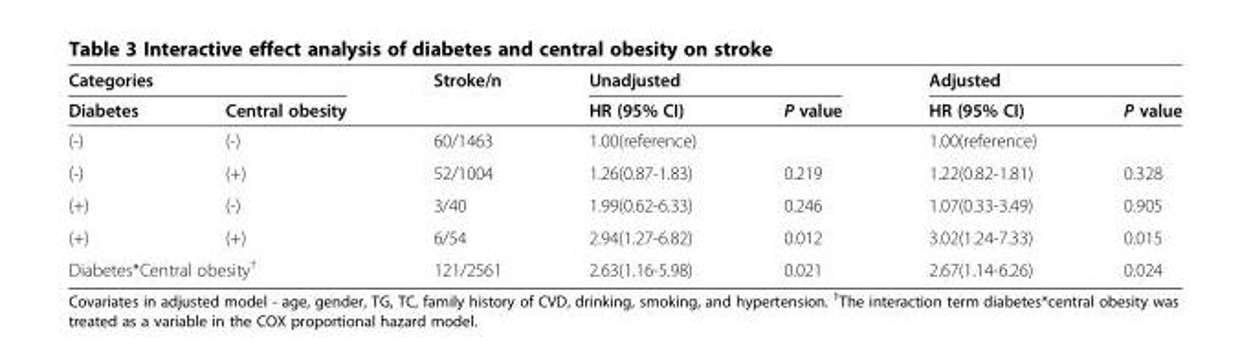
<table><thead><tr><td colspan="2">Categories</td><td rowspan="2">Stroke/n</td><td colspan="2">Unadjusted</td><td colspan="2">Adjusted</td></tr><tr><td>Diabetes</td><td>Central obesity</td><td>HR (95% CI)</td><td>P value</td><td>HR (95% CI)</td><td>P value</td></tr></thead><tbody><tr><td>(-)</td><td>(-)</td><td>60/1463</td><td>1.00(reference)</td><td></td><td>1.00(reference)</td><td></td></tr><tr><td>(-)</td><td>(+)</td><td>52/1004</td><td>1.26(0.87-1.83)</td><td>0.219</td><td>1.22(0.82-1.81)</td><td>0.328</td></tr><tr><td>(+)</td><td>(-)</td><td>3/40</td><td>1.99(0.62-6.33)</td><td>0.246</td><td>1.07(0.33-3.49)</td><td>0.905</td></tr><tr><td>(+)</td><td>(+)</td><td>6/54</td><td>2.94(1.27-6.82)</td><td>0.012</td><td>3.02(1.24-7.33)</td><td>0.015</td></tr><tr><td colspan="2">Diabetes*Central obesity<sup>†</sup></td><td>121/2561</td><td>2.63(1.16-5.98)</td><td>0.021</td><td>2.67(1.14-6.26)</td><td>0.024</td></tr></tbody></table>